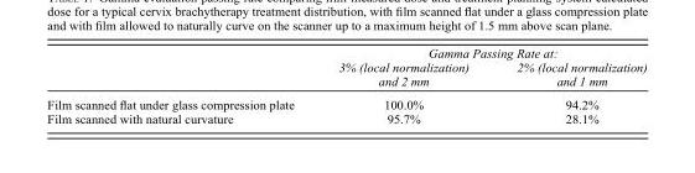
<table><thead><tr><td rowspan="2"></td><td colspan="2">Gamma Passing Rate at:</td></tr><tr><td>3% (local normalization) and 2 mm</td><td>2% (local normalization) and 1 mm</td></tr></thead><tbody><tr><td>Film scanned flat under glass compression plate</td><td>100.0%</td><td>94.2%</td></tr><tr><td>Film scanned with natural curvature</td><td>95.7%</td><td>28.1%</td></tr></tbody></table>